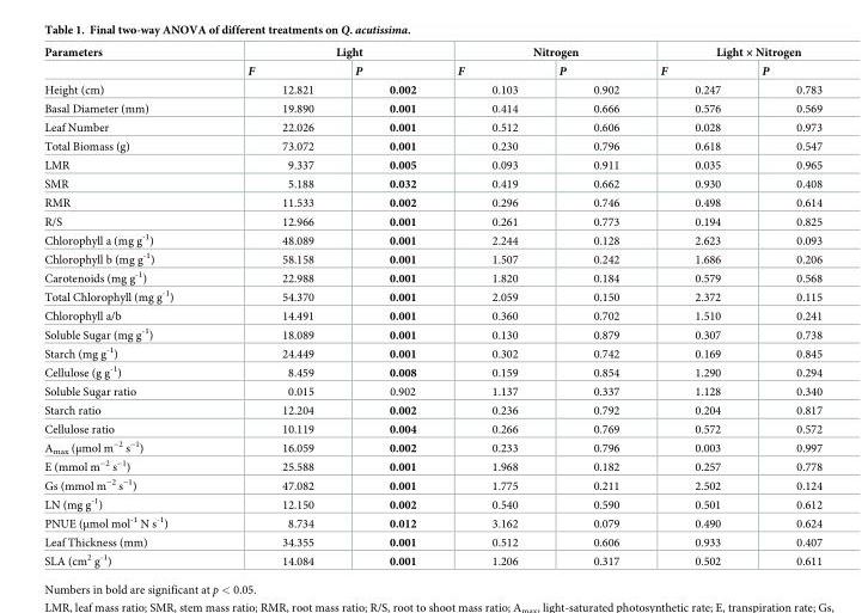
<table><thead><tr><td rowspan="2">Parameters</td><td colspan="2">Light</td><td colspan="2">Nitrogen</td><td colspan="2">Light × Nitrogen</td></tr><tr><td>F</td><td>P</td><td>F</td><td>P</td><td>F</td><td>P</td></tr></thead><tbody><tr><td>Height (cm)</td><td>12.821</td><td>0.002</td><td>0.103</td><td>0.902</td><td>0.247</td><td>0.783</td></tr><tr><td>Basal Diameter (mm)</td><td>19.890</td><td>0.001</td><td>0.414</td><td>0.666</td><td>0.576</td><td>0.569</td></tr><tr><td>Leaf Number</td><td>22.026</td><td>0.001</td><td>0.512</td><td>0.606</td><td>0.028</td><td>0.973</td></tr><tr><td>Total Biomass (g)</td><td>73.072</td><td>0.001</td><td>0.230</td><td>0.796</td><td>0.618</td><td>0.547</td></tr><tr><td>LMR</td><td>9.337</td><td>0.005</td><td>0.093</td><td>0.911</td><td>0.035</td><td>0.965</td></tr><tr><td>SMR</td><td>5.188</td><td>0.032</td><td>0.419</td><td>0.662</td><td>0.930</td><td>0.408</td></tr><tr><td>RMR</td><td>11.533</td><td>0.002</td><td>0.296</td><td>0.746</td><td>0.498</td><td>0.614</td></tr><tr><td>R/S</td><td>12.966</td><td>0.001</td><td>0.261</td><td>0.773</td><td>0.194</td><td>0.825</td></tr><tr><td>Chlorophyll a (mg g<sup>-1</sup>)</td><td>48.089</td><td>0.001</td><td>2.244</td><td>0.128</td><td>2.623</td><td>0.093</td></tr><tr><td>Chlorophyll b (mg g<sup>-1</sup>)</td><td>58.158</td><td>0.001</td><td>1.507</td><td>0.242</td><td>1.686</td><td>0.206</td></tr><tr><td>Carotenoids (mg g<sup>-1</sup>)</td><td>22.988</td><td>0.001</td><td>1.820</td><td>0.184</td><td>0.579</td><td>0.568</td></tr><tr><td>Total Chlorophyll (mg g<sup>-1</sup>)</td><td>54.370</td><td>0.001</td><td>2.059</td><td>0.150</td><td>2.372</td><td>0.115</td></tr><tr><td>Chlorophyll a/b</td><td>14.491</td><td>0.001</td><td>0.360</td><td>0.702</td><td>1.510</td><td>0.241</td></tr><tr><td>Soluble Sugar (mg g<sup>-1</sup>)</td><td>18.089</td><td>0.001</td><td>0.130</td><td>0.879</td><td>0.307</td><td>0.738</td></tr><tr><td>Starch (mg g<sup>-1</sup>)</td><td>24.449</td><td>0.001</td><td>0.302</td><td>0.742</td><td>0.169</td><td>0.845</td></tr><tr><td>Cellulose (g g<sup>-1</sup>)</td><td>8.459</td><td>0.008</td><td>0.159</td><td>0.854</td><td>1.290</td><td>0.294</td></tr><tr><td>Soluble Sugar ratio</td><td>0.015</td><td>0.902</td><td>1.137</td><td>0.337</td><td>1.128</td><td>0.340</td></tr><tr><td>Starch ratio</td><td>12.204</td><td>0.002</td><td>0.236</td><td>0.792</td><td>0.204</td><td>0.817</td></tr><tr><td>Cellulose ratio</td><td>10.119</td><td>0.004</td><td>0.266</td><td>0.769</td><td>0.572</td><td>0.572</td></tr><tr><td>A<sub>max</sub> (μmol m<sup>−2</sup> s<sup>−1</sup>)</td><td>16.059</td><td>0.002</td><td>0.233</td><td>0.796</td><td>0.003</td><td>0.997</td></tr><tr><td>E (mmol m<sup>−2</sup> s<sup>−1</sup>)</td><td>25.588</td><td>0.001</td><td>1.968</td><td>0.182</td><td>0.257</td><td>0.778</td></tr><tr><td>Gs (mmol m<sup>−2</sup> s<sup>−1</sup>)</td><td>47.082</td><td>0.001</td><td>1.775</td><td>0.211</td><td>2.502</td><td>0.124</td></tr><tr><td>LN (mg g<sup>-1</sup>)</td><td>12.150</td><td>0.002</td><td>0.540</td><td>0.590</td><td>0.501</td><td>0.612</td></tr><tr><td>PNUE (μmol mol<sup>-1</sup> N s<sup>-1</sup>)</td><td>8.734</td><td>0.012</td><td>3.162</td><td>0.079</td><td>0.490</td><td>0.624</td></tr><tr><td>Leaf Thickness (mm)</td><td>34.355</td><td>0.001</td><td>0.512</td><td>0.606</td><td>0.933</td><td>0.407</td></tr><tr><td>SLA (cm<sup>2</sup> g<sup>-1</sup>)</td><td>14.084</td><td>0.001</td><td>1.206</td><td>0.317</td><td>0.502</td><td>0.611</td></tr></tbody></table>